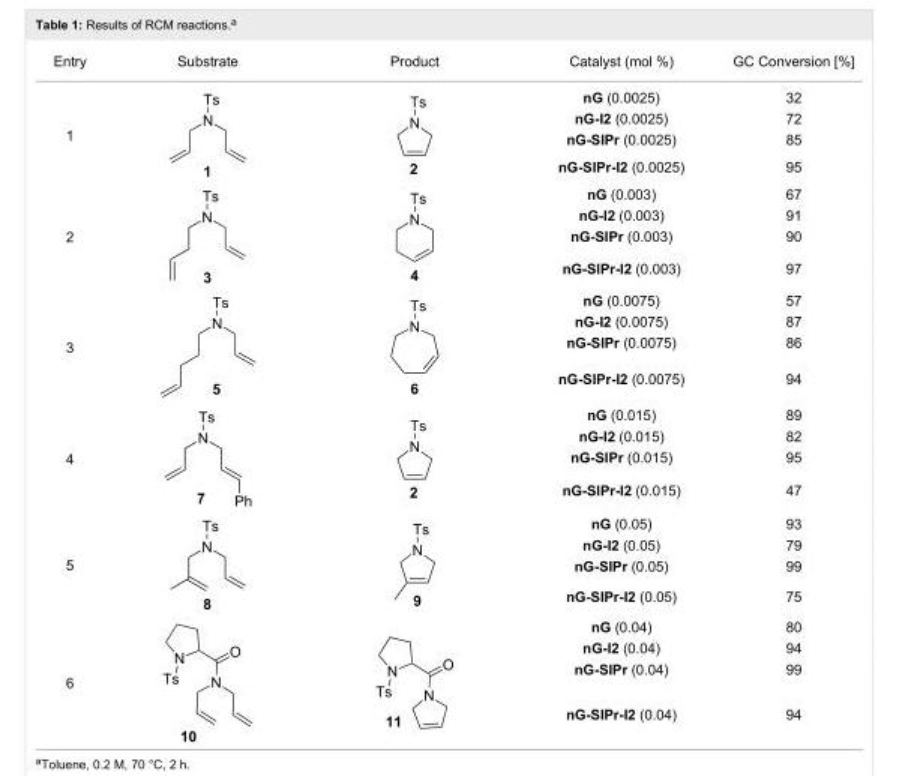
<table><tbody><tr><td>Entry</td><td>Substrate</td><td>Product</td><td>Catalyst (mol %)</td><td>GC Conversion [%]</td></tr><tr><td rowspan="4">1</td><td rowspan="4"></td><td rowspan="4"></td><td>nG (0.0025)</td><td>32</td></tr><tr><td>nG-I2 (0.0025)</td><td>72</td></tr><tr><td>nG-SIPr (0.0025)</td><td>85</td></tr><tr><td>nG-SIPr-I2 (0.0025)</td><td>95</td></tr><tr><td rowspan="4">2</td><td rowspan="4"></td><td rowspan="4"></td><td>nG (0.003)</td><td>67</td></tr><tr><td>nG-I2 (0.003)</td><td>91</td></tr><tr><td>nG-SIPr (0.003)</td><td>90</td></tr><tr><td>nG-SIPr-I2 (0.003)</td><td>97</td></tr><tr><td rowspan="4">3</td><td rowspan="4"></td><td rowspan="4"></td><td>nG (0.0075)</td><td>57</td></tr><tr><td>nG-I2 (0.0075)</td><td>87</td></tr><tr><td>nG-SIPr (0.0075)</td><td>86</td></tr><tr><td>nG-SIPr-I2 (0.0075)</td><td>94</td></tr><tr><td rowspan="4">4</td><td rowspan="4"></td><td rowspan="4"></td><td>nG (0.015)</td><td>89</td></tr><tr><td>nG-I2 (0.015)</td><td>82</td></tr><tr><td>nG-SIPr (0.015)</td><td>95</td></tr><tr><td>nG-SIPr-I2 (0.015)</td><td>47</td></tr><tr><td rowspan="4">5</td><td rowspan="4"></td><td rowspan="4"></td><td>nG (0.05)</td><td>93</td></tr><tr><td>nG-I2 (0.05)</td><td>79</td></tr><tr><td>nG-SIPr (0.05)</td><td>99</td></tr><tr><td>nG-SIPr-I2 (0.05)</td><td>75</td></tr><tr><td rowspan="4">6</td><td rowspan="4"></td><td rowspan="4"></td><td>nG (0.04)</td><td>80</td></tr><tr><td>nG-I2 (0.04)</td><td>94</td></tr><tr><td>nG-SIPr (0.04)</td><td>99</td></tr><tr><td>nG-SIPr-I2 (0.04)</td><td>94</td></tr></tbody></table>